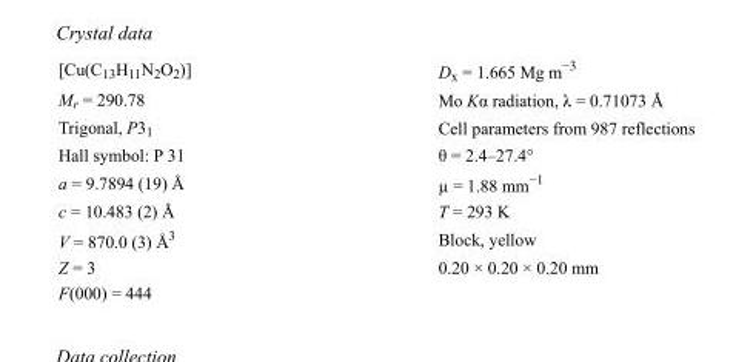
<table><tbody><tr><td>[Cu(C<sub>13</sub>H<sub>11</sub>N<sub>2</sub>O<sub>2</sub>)]</td><td>D<sub>x</sub> = 1.665 Mg m<sup>−3</sup></td></tr><tr><td>M<sub>r</sub> = 290.78</td><td>Mo Kα radiation, λ = 0.71073 Å</td></tr><tr><td>Trigonal, P3<sub>1</sub></td><td>Cell parameters from 987 reflections</td></tr><tr><td>Hall symbol: P 31</td><td>θ = 2.4–27.4°</td></tr><tr><td>a = 9.7894 (19) Å</td><td>µ = 1.88 mm<sup>−1</sup></td></tr><tr><td>c = 10.483 (2) Å</td><td>T = 293 K</td></tr><tr><td>V = 870.0 (3) Å<sup>3</sup></td><td>Block, yellow</td></tr><tr><td>Z = 3</td><td>0.20 × 0.20 × 0.20 mm</td></tr><tr><td>F(000) = 444</td><td></td></tr></tbody></table>